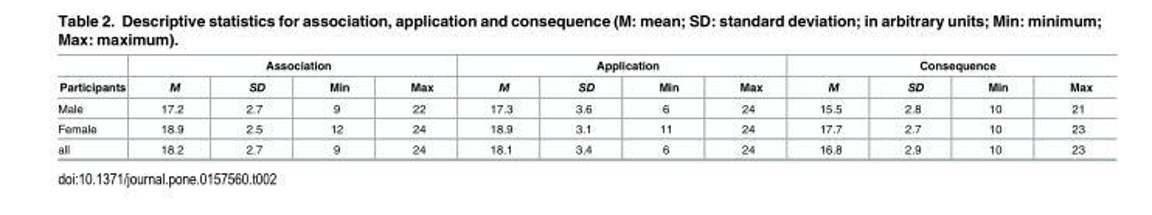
<table><thead><tr><td rowspan="2">Participants</td><td colspan="4">Association</td><td colspan="4">Application</td><td colspan="4">Consequence</td></tr><tr><td>M</td><td>SD</td><td>Min</td><td>Max</td><td>M</td><td>SD</td><td>Min</td><td>Max</td><td>M</td><td>SD</td><td>Min</td><td>Max</td></tr></thead><tbody><tr><td>Male</td><td>17.2</td><td>2.7</td><td>9</td><td>22</td><td>17.3</td><td>3.6</td><td>6</td><td>24</td><td>15.5</td><td>2.8</td><td>10</td><td>21</td></tr><tr><td>Female</td><td>18.9</td><td>2.5</td><td>12</td><td>24</td><td>18.9</td><td>3.1</td><td>11</td><td>24</td><td>17.7</td><td>2.7</td><td>10</td><td>23</td></tr><tr><td>all</td><td>18.2</td><td>2.7</td><td>9</td><td>24</td><td>18.1</td><td>3.4</td><td>6</td><td>24</td><td>16.8</td><td>2.9</td><td>10</td><td>23</td></tr></tbody></table>